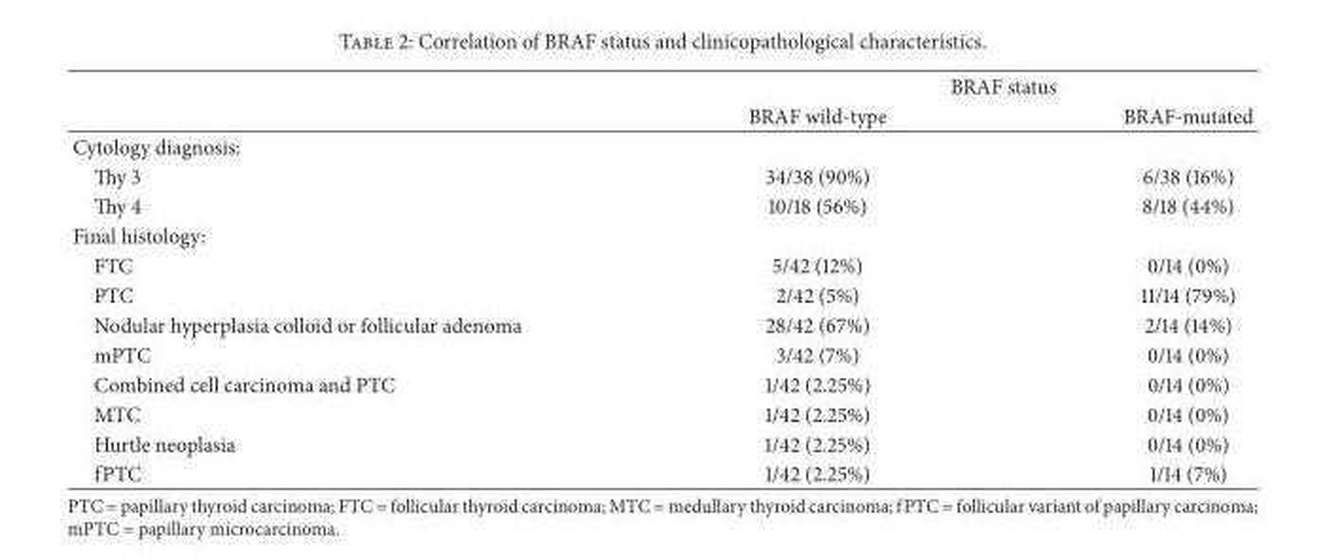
<table><thead><tr><td rowspan="2"></td><td colspan="2">BRAF status</td></tr><tr><td>BRAF wild-type</td><td>BRAF-mutated</td></tr></thead><tbody><tr><td colspan="3">Cytology diagnosis:</td></tr><tr><td>Thy 3</td><td>34/38 (90%)</td><td>6/38 (16%)</td></tr><tr><td>Thy 4</td><td>10/18 (56%)</td><td>8/18 (44%)</td></tr><tr><td colspan="3">Final histology:</td></tr><tr><td>FTC</td><td>5/42 (12%)</td><td>0/14 (0%)</td></tr><tr><td>PTC</td><td>2/42 (5%)</td><td>11/14 (79%)</td></tr><tr><td>Nodular hyperplasia colloid or follicular adenoma</td><td>28/42 (67%)</td><td>2/14 (14%)</td></tr><tr><td>mPTC</td><td>3/42 (7%)</td><td>0/14 (0%)</td></tr><tr><td>Combined cell carcinoma and PTC</td><td>1/42 (2.25%)</td><td>0/14 (0%)</td></tr><tr><td>MTC</td><td>1/42 (2.25%)</td><td>0/14 (0%)</td></tr><tr><td>Hurtle neoplasia</td><td>1/42 (2.25%)</td><td>0/14 (0%)</td></tr><tr><td>fPTC</td><td>1/42 (2.25%)</td><td>1/14 (7%)</td></tr></tbody></table>